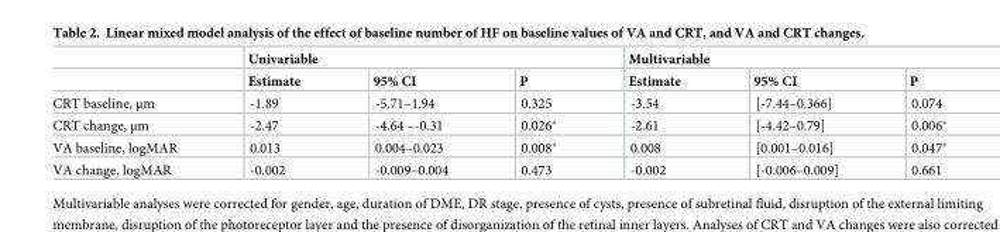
<table><thead><tr><td rowspan="2"></td><td colspan="3">Univariable</td><td colspan="3">Multivariable</td></tr><tr><td>Estimate</td><td>95% CI</td><td>P</td><td>Estimate</td><td>95% CI</td><td>P</td></tr></thead><tbody><tr><td>CRT baseline, μm</td><td>-1.89</td><td>-5.71–1.94</td><td>0.325</td><td>-3.54</td><td>[-7.44–0.366]</td><td>0.074</td></tr><tr><td>CRT change, μm</td><td>-2.47</td><td>-4.64 –-0.31</td><td>0.026*</td><td>-2.61</td><td>[-4.42–0.79]</td><td>0.006*</td></tr><tr><td>VA baseline, logMAR</td><td>0.013</td><td>0.004–0.023</td><td>0.008*</td><td>0.008</td><td>[0.001–0.016]</td><td>0.047*</td></tr><tr><td>VA change, logMAR</td><td>-0.002</td><td>-0.009–0.004</td><td>0.473</td><td>-0.002</td><td>[-0.006–0.009]</td><td>0.661</td></tr></tbody></table>